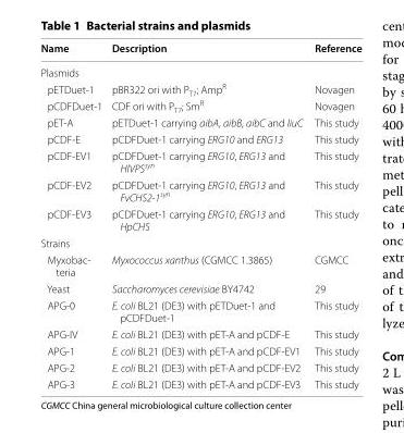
<table><thead><tr><td>Name</td><td>Description</td><td>Reference</td></tr></thead><tbody><tr><td colspan="3">Plasmids</td></tr><tr><td>pETDuet-1</td><td>pBR322 ori with P<sub>T7</sub>; Amp<sup>R</sup></td><td>Novagen</td></tr><tr><td>pCDFDuet-1</td><td>CDF ori with P<sub>T7</sub>; Sm<sup>R</sup></td><td>Novagen</td></tr><tr><td>pET-A</td><td>pETDuet-1 carrying aibA, aibB, aibC and liuC</td><td>This study</td></tr><tr><td>pCDF-E</td><td>pCDFDuet-1 carrying ERG10 and ERG13</td><td>This study</td></tr><tr><td>pCDF-EV1</td><td>pCDFDuet-1 carrying ERG10, ERG13 and HlVPS<sup>syn</sup></td><td>This study</td></tr><tr><td>pCDF-EV2</td><td>pCDFDuet-1 carrying ERG10, ERG13 and FvCHS2-1<sup>syn</sup></td><td>This study</td></tr><tr><td>pCDF-EV3</td><td>pCDFDuet-1 carrying ERG10, ERG13 and HpCHS</td><td>This study</td></tr><tr><td colspan="3">Strains</td></tr><tr><td>Myxobac- teria</td><td>Myxococcus xanthus (CGMCC 1.3865)</td><td>CGMCC</td></tr><tr><td>Yeast</td><td>Saccharomyces cerevisiae BY4742</td><td>29</td></tr><tr><td>APG-0</td><td>E. coli BL21 (DE3) with pETDuet-1 and pCDFDuet-1</td><td>This study</td></tr><tr><td>APG-IV</td><td>E. coli BL21 (DE3) with pET-A and pCDF-E</td><td>This study</td></tr><tr><td>APG-1</td><td>E. coli BL21 (DE3) with pET-A and pCDF-EV1</td><td>This study</td></tr><tr><td>APG-2</td><td>E. coli BL21 (DE3) with pET-A and pCDF-EV2</td><td>This study</td></tr><tr><td>APG-3</td><td>E. coli BL21 (DE3) with pET-A and pCDF-EV3</td><td>This study</td></tr></tbody></table>